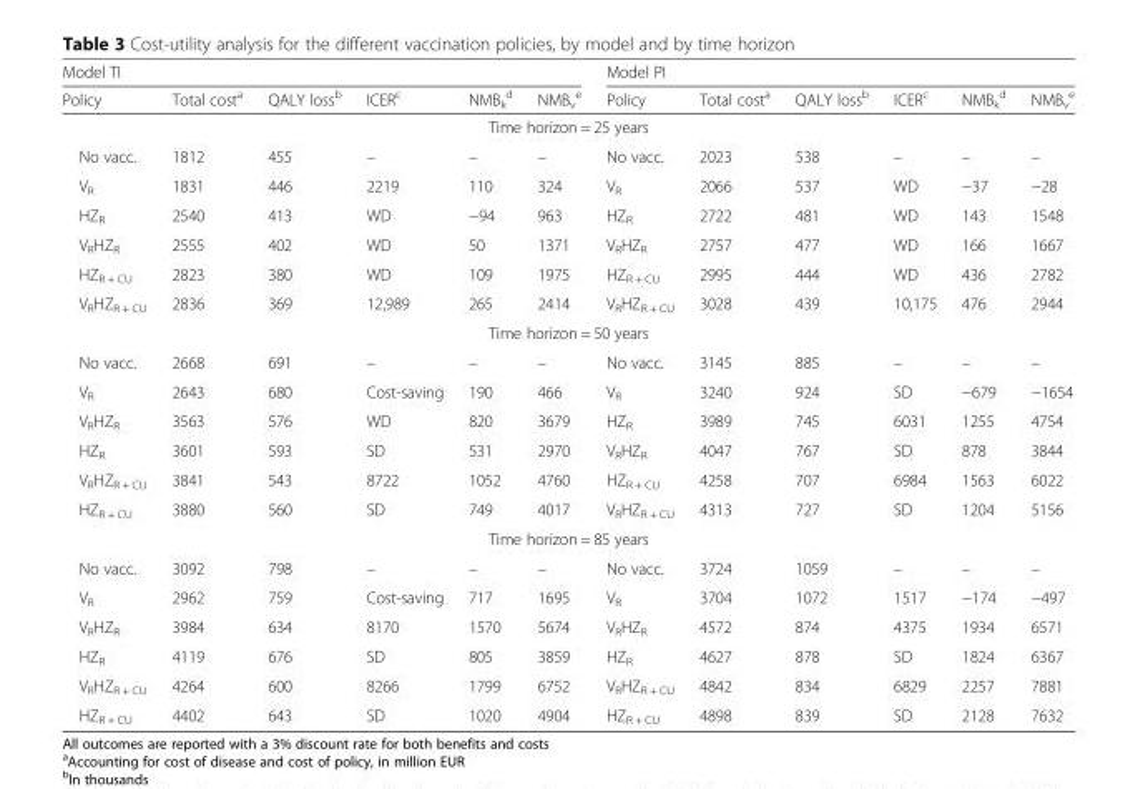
<table><thead><tr><td colspan="6">Model TI</td><td colspan="6">Model PI</td></tr><tr><td>Policy</td><td>Total cost<sup>a</sup></td><td>QALY loss<sup>b</sup></td><td>ICER<sup>c</sup></td><td>NMB<sub>k</sub> <sup>d</sup></td><td>NMB<sub>v</sub> <sup>e</sup></td><td>Policy</td><td>Total cost<sup>a</sup></td><td>QALY loss<sup>b</sup></td><td>ICER<sup>c</sup></td><td>NMB<sub>k</sub> <sup>d</sup></td><td>NMB<sub>v</sub> <sup>e</sup></td></tr></thead><tbody><tr><td colspan="12">Time horizon = 25 years</td></tr><tr><td>No vacc.</td><td>1812</td><td>455</td><td>–</td><td>–</td><td>–</td><td>No vacc.</td><td>2023</td><td>538</td><td>–</td><td>–</td><td>–</td></tr><tr><td>V<sub>R</sub></td><td>1831</td><td>446</td><td>2219</td><td>110</td><td>324</td><td>V<sub>R</sub></td><td>2066</td><td>537</td><td>WD</td><td>−37</td><td>−28</td></tr><tr><td>HZ<sub>R</sub></td><td>2540</td><td>413</td><td>WD</td><td>−94</td><td>963</td><td>HZ<sub>R</sub></td><td>2722</td><td>481</td><td>WD</td><td>143</td><td>1548</td></tr><tr><td>V<sub>R</sub>HZ<sub>R</sub></td><td>2555</td><td>402</td><td>WD</td><td>50</td><td>1371</td><td>V<sub>R</sub>HZ<sub>R</sub></td><td>2757</td><td>477</td><td>WD</td><td>166</td><td>1667</td></tr><tr><td>HZ<sub>R + CU</sub></td><td>2823</td><td>380</td><td>WD</td><td>109</td><td>1975</td><td>HZ<sub>R + CU</sub></td><td>2995</td><td>444</td><td>WD</td><td>436</td><td>2782</td></tr><tr><td>V<sub>R</sub>HZ<sub>R + CU</sub></td><td>2836</td><td>369</td><td>12,989</td><td>265</td><td>2414</td><td>V<sub>R</sub>HZ<sub>R + CU</sub></td><td>3028</td><td>439</td><td>10,175</td><td>476</td><td>2944</td></tr><tr><td colspan="12">Time horizon = 50 years</td></tr><tr><td>No vacc.</td><td>2668</td><td>691</td><td>–</td><td>–</td><td>–</td><td>No vacc.</td><td>3145</td><td>885</td><td>–</td><td>–</td><td>–</td></tr><tr><td>V<sub>R</sub></td><td>2643</td><td>680</td><td>Cost-saving</td><td>190</td><td>466</td><td>V<sub>R</sub></td><td>3240</td><td>924</td><td>SD</td><td>−679</td><td>−1654</td></tr><tr><td>V<sub>R</sub>HZ<sub>R</sub></td><td>3563</td><td>576</td><td>WD</td><td>820</td><td>3679</td><td>HZ<sub>R</sub></td><td>3989</td><td>745</td><td>6031</td><td>1255</td><td>4754</td></tr><tr><td>HZ<sub>R</sub></td><td>3601</td><td>593</td><td>SD</td><td>531</td><td>2970</td><td>V<sub>R</sub>HZ<sub>R</sub></td><td>4047</td><td>767</td><td>SD</td><td>878</td><td>3844</td></tr><tr><td>V<sub>R</sub>HZ<sub>R + CU</sub></td><td>3841</td><td>543</td><td>8722</td><td>1052</td><td>4760</td><td>HZ<sub>R + CU</sub></td><td>4258</td><td>707</td><td>6984</td><td>1563</td><td>6022</td></tr><tr><td>HZ<sub>R + CU</sub></td><td>3880</td><td>560</td><td>SD</td><td>749</td><td>4017</td><td>V<sub>R</sub>HZ<sub>R + CU</sub></td><td>4313</td><td>727</td><td>SD</td><td>1204</td><td>5156</td></tr><tr><td colspan="12">Time horizon = 85 years</td></tr><tr><td>No vacc.</td><td>3092</td><td>798</td><td>–</td><td>–</td><td>–</td><td>No vacc.</td><td>3724</td><td>1059</td><td>–</td><td>–</td><td>–</td></tr><tr><td>V<sub>R</sub></td><td>2962</td><td>759</td><td>Cost-saving</td><td>717</td><td>1695</td><td>V<sub>R</sub></td><td>3704</td><td>1072</td><td>1517</td><td>−174</td><td>−497</td></tr><tr><td>V<sub>R</sub>HZ<sub>R</sub></td><td>3984</td><td>634</td><td>8170</td><td>1570</td><td>5674</td><td>V<sub>R</sub>HZ<sub>R</sub></td><td>4572</td><td>874</td><td>4375</td><td>1934</td><td>6571</td></tr><tr><td>HZ<sub>R</sub></td><td>4119</td><td>676</td><td>SD</td><td>805</td><td>3859</td><td>HZ<sub>R</sub></td><td>4627</td><td>878</td><td>SD</td><td>1824</td><td>6367</td></tr><tr><td>V<sub>R</sub>HZ<sub>R + CU</sub></td><td>4264</td><td>600</td><td>8266</td><td>1799</td><td>6752</td><td>V<sub>R</sub>HZ<sub>R + CU</sub></td><td>4842</td><td>834</td><td>6829</td><td>2257</td><td>7881</td></tr><tr><td>HZ<sub>R + CU</sub></td><td>4402</td><td>643</td><td>SD</td><td>1020</td><td>4904</td><td>HZ<sub>R + CU</sub></td><td>4898</td><td>839</td><td>SD</td><td>2128</td><td>7632</td></tr></tbody></table>